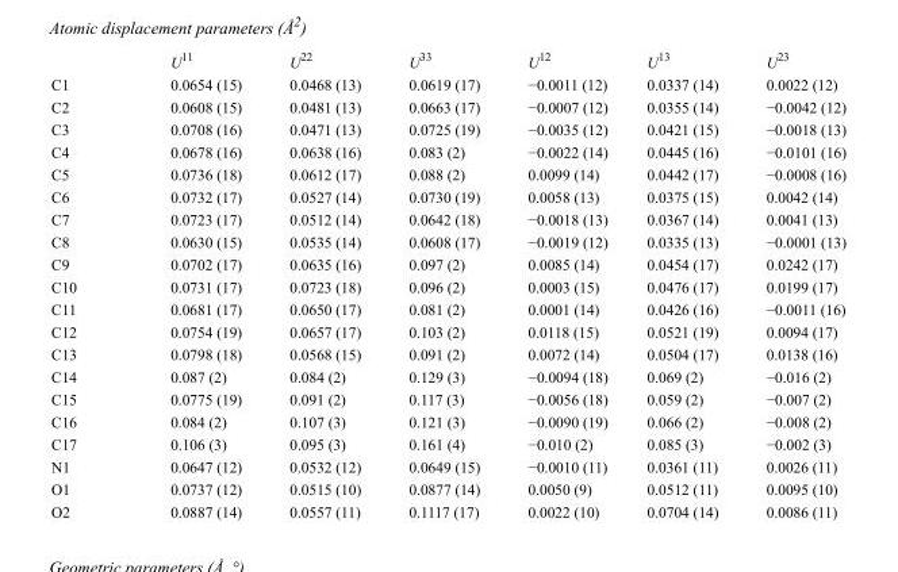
<table><thead><tr><td></td><td>U<sup>11</sup></td><td>U<sup>22</sup></td><td>U<sup>33</sup></td><td>U<sup>12</sup></td><td>U<sup>13</sup></td><td>U<sup>23</sup></td></tr></thead><tbody><tr><td>C1</td><td>0.0654 (15)</td><td>0.0468 (13)</td><td>0.0619 (17)</td><td>−0.0011 (12)</td><td>0.0337 (14)</td><td>0.0022 (12)</td></tr><tr><td>C2</td><td>0.0608 (15)</td><td>0.0481 (13)</td><td>0.0663 (17)</td><td>−0.0007 (12)</td><td>0.0355 (14)</td><td>−0.0042 (12)</td></tr><tr><td>C3</td><td>0.0708 (16)</td><td>0.0471 (13)</td><td>0.0725 (19)</td><td>−0.0035 (12)</td><td>0.0421 (15)</td><td>−0.0018 (13)</td></tr><tr><td>C4</td><td>0.0678 (16)</td><td>0.0638 (16)</td><td>0.083 (2)</td><td>−0.0022 (14)</td><td>0.0445 (16)</td><td>−0.0101 (16)</td></tr><tr><td>C5</td><td>0.0736 (18)</td><td>0.0612 (17)</td><td>0.088 (2)</td><td>0.0099 (14)</td><td>0.0442 (17)</td><td>−0.0008 (16)</td></tr><tr><td>C6</td><td>0.0732 (17)</td><td>0.0527 (14)</td><td>0.0730 (19)</td><td>0.0058 (13)</td><td>0.0375 (15)</td><td>0.0042 (14)</td></tr><tr><td>C7</td><td>0.0723 (17)</td><td>0.0512 (14)</td><td>0.0642 (18)</td><td>−0.0018 (13)</td><td>0.0367 (14)</td><td>0.0041 (13)</td></tr><tr><td>C8</td><td>0.0630 (15)</td><td>0.0535 (14)</td><td>0.0608 (17)</td><td>−0.0019 (12)</td><td>0.0335 (13)</td><td>−0.0001 (13)</td></tr><tr><td>C9</td><td>0.0702 (17)</td><td>0.0635 (16)</td><td>0.097 (2)</td><td>0.0085 (14)</td><td>0.0454 (17)</td><td>0.0242 (17)</td></tr><tr><td>C10</td><td>0.0731 (17)</td><td>0.0723 (18)</td><td>0.096 (2)</td><td>0.0003 (15)</td><td>0.0476 (17)</td><td>0.0199 (17)</td></tr><tr><td>C11</td><td>0.0681 (17)</td><td>0.0650 (17)</td><td>0.081 (2)</td><td>0.0001 (14)</td><td>0.0426 (16)</td><td>−0.0011 (16)</td></tr><tr><td>C12</td><td>0.0754 (19)</td><td>0.0657 (17)</td><td>0.103 (2)</td><td>0.0118 (15)</td><td>0.0521 (19)</td><td>0.0094 (17)</td></tr><tr><td>C13</td><td>0.0798 (18)</td><td>0.0568 (15)</td><td>0.091 (2)</td><td>0.0072 (14)</td><td>0.0504 (17)</td><td>0.0138 (16)</td></tr><tr><td>C14</td><td>0.087 (2)</td><td>0.084 (2)</td><td>0.129 (3)</td><td>−0.0094 (18)</td><td>0.069 (2)</td><td>−0.016 (2)</td></tr><tr><td>C15</td><td>0.0775 (19)</td><td>0.091 (2)</td><td>0.117 (3)</td><td>−0.0056 (18)</td><td>0.059 (2)</td><td>−0.007 (2)</td></tr><tr><td>C16</td><td>0.084 (2)</td><td>0.107 (3)</td><td>0.121 (3)</td><td>−0.0090 (19)</td><td>0.066 (2)</td><td>−0.008 (2)</td></tr><tr><td>C17</td><td>0.106 (3)</td><td>0.095 (3)</td><td>0.161 (4)</td><td>−0.010 (2)</td><td>0.085 (3)</td><td>−0.002 (3)</td></tr><tr><td>N1</td><td>0.0647 (12)</td><td>0.0532 (12)</td><td>0.0649 (15)</td><td>−0.0010 (11)</td><td>0.0361 (11)</td><td>0.0026 (11)</td></tr><tr><td>O1</td><td>0.0737 (12)</td><td>0.0515 (10)</td><td>0.0877 (14)</td><td>0.0050 (9)</td><td>0.0512 (11)</td><td>0.0095 (10)</td></tr><tr><td>O2</td><td>0.0887 (14)</td><td>0.0557 (11)</td><td>0.1117 (17)</td><td>0.0022 (10)</td><td>0.0704 (14)</td><td>0.0086 (11)</td></tr></tbody></table>